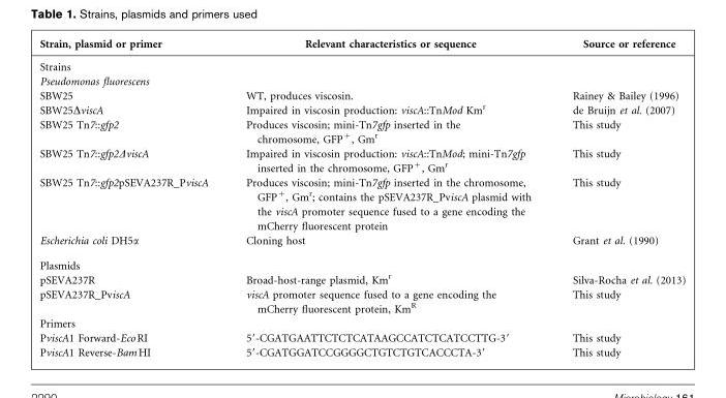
<table><thead><tr><td>Strain, plasmid or primer</td><td>Relevant characteristics or sequence</td><td>Source or reference</td></tr></thead><tbody><tr><td colspan="3">Strains</td></tr><tr><td colspan="3">Pseudomonas fluorescens</td></tr><tr><td>SBW25</td><td>WT, produces viscosin.</td><td>Rainey &amp; Bailey (1996)</td></tr><tr><td>SBW25ΔviscA</td><td>Impaired in viscosin production: viscA::TnMod Km<sup>r</sup></td><td>de Bruijn et al. (2007)</td></tr><tr><td>SBW25 Tn7::gfp2</td><td>Produces viscosin; mini-Tn7gfp inserted in the chromosome, GFP<sup>+</sup>, Gm<sup>r</sup></td><td>This study</td></tr><tr><td>SBW25 Tn7::gfp2ΔviscA</td><td>Impaired in viscosin production: viscA::TnMod; mini-Tn7gfp inserted in the chromosome, GFP<sup>+</sup>, Gm<sup>r</sup></td><td>This study</td></tr><tr><td>SBW25 Tn7::gfp2pSEVA237R_PviscA</td><td>Produces viscosin; mini-Tn7gfp inserted in the chromosome, GFP<sup>+</sup>, Gm<sup>r</sup>; contains the pSEVA237R_PviscA plasmid with the viscA promoter sequence fused to a gene encoding the mCherry fluorescent protein</td><td>This study</td></tr><tr><td>Escherichia coli DH5α</td><td>Cloning host</td><td>Grant et al. (1990)</td></tr><tr><td colspan="3">Plasmids</td></tr><tr><td>pSEVA237R</td><td>Broad-host-range plasmid, Km<sup>r</sup></td><td>Silva-Rocha et al. (2013)</td></tr><tr><td>pSEVA237R_PviscA</td><td>viscA promoter sequence fused to a gene encoding the mCherry fluorescent protein, Km<sup>R</sup></td><td>This study</td></tr><tr><td colspan="3">Primers</td></tr><tr><td>PviscA1 Forward-Eco RI</td><td>5′-CGATGAATTCTCTCATAAGCCATCTCATCCTTG-3′</td><td>This study</td></tr><tr><td>PviscA1 Reverse-Bam HI</td><td>5′-CGATGGATCCGGGGCTGTCTGTCACCCTA-3′</td><td>This study</td></tr></tbody></table>